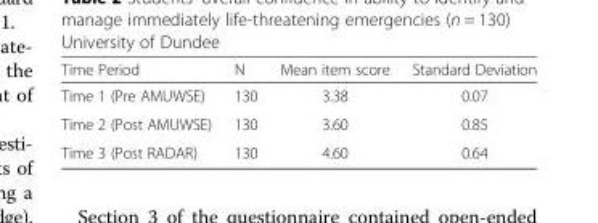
<table><thead><tr><td>Time Period</td><td>N</td><td>Mean item score</td><td>Standard Deviation</td></tr></thead><tbody><tr><td>Time 1 (Pre AMUWSE)</td><td>130</td><td>3.38</td><td>0.07</td></tr><tr><td>Time 2 (Post AMUWSE)</td><td>130</td><td>3.60</td><td>0.85</td></tr><tr><td>Time 3 (Post RADAR)</td><td>130</td><td>4.60</td><td>0.64</td></tr></tbody></table>